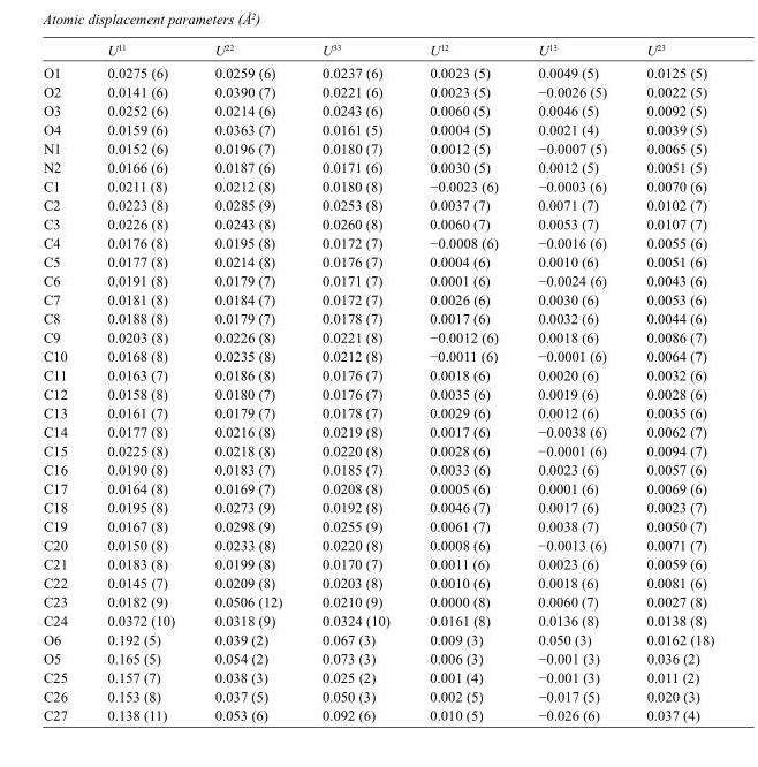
<table><thead><tr><td></td><td>U<sup>11</sup></td><td>U<sup>22</sup></td><td>U<sup>33</sup></td><td>U<sup>12</sup></td><td>U<sup>13</sup></td><td>U<sup>23</sup></td></tr></thead><tbody><tr><td>O1</td><td>0.0275 (6)</td><td>0.0259 (6)</td><td>0.0237 (6)</td><td>0.0023 (5)</td><td>0.0049 (5)</td><td>0.0125 (5)</td></tr><tr><td>O2</td><td>0.0141 (6)</td><td>0.0390 (7)</td><td>0.0221 (6)</td><td>0.0023 (5)</td><td>−0.0026 (5)</td><td>0.0022 (5)</td></tr><tr><td>O3</td><td>0.0252 (6)</td><td>0.0214 (6)</td><td>0.0243 (6)</td><td>0.0060 (5)</td><td>0.0046 (5)</td><td>0.0092 (5)</td></tr><tr><td>O4</td><td>0.0159 (6)</td><td>0.0363 (7)</td><td>0.0161 (5)</td><td>0.0004 (5)</td><td>0.0021 (4)</td><td>0.0039 (5)</td></tr><tr><td>N1</td><td>0.0152 (6)</td><td>0.0196 (7)</td><td>0.0180 (7)</td><td>0.0012 (5)</td><td>−0.0007 (5)</td><td>0.0065 (5)</td></tr><tr><td>N2</td><td>0.0166 (6)</td><td>0.0187 (6)</td><td>0.0171 (6)</td><td>0.0030 (5)</td><td>0.0012 (5)</td><td>0.0051 (5)</td></tr><tr><td>C1</td><td>0.0211 (8)</td><td>0.0212 (8)</td><td>0.0180 (8)</td><td>−0.0023 (6)</td><td>−0.0003 (6)</td><td>0.0070 (6)</td></tr><tr><td>C2</td><td>0.0223 (8)</td><td>0.0285 (9)</td><td>0.0253 (8)</td><td>0.0037 (7)</td><td>0.0071 (7)</td><td>0.0102 (7)</td></tr><tr><td>C3</td><td>0.0226 (8)</td><td>0.0243 (8)</td><td>0.0260 (8)</td><td>0.0060 (7)</td><td>0.0053 (7)</td><td>0.0107 (7)</td></tr><tr><td>C4</td><td>0.0176 (8)</td><td>0.0195 (8)</td><td>0.0172 (7)</td><td>−0.0008 (6)</td><td>−0.0016 (6)</td><td>0.0055 (6)</td></tr><tr><td>C5</td><td>0.0177 (8)</td><td>0.0214 (8)</td><td>0.0176 (7)</td><td>0.0004 (6)</td><td>0.0010 (6)</td><td>0.0051 (6)</td></tr><tr><td>C6</td><td>0.0191 (8)</td><td>0.0179 (7)</td><td>0.0171 (7)</td><td>0.0001 (6)</td><td>−0.0024 (6)</td><td>0.0043 (6)</td></tr><tr><td>C7</td><td>0.0181 (8)</td><td>0.0184 (7)</td><td>0.0172 (7)</td><td>0.0026 (6)</td><td>0.0030 (6)</td><td>0.0053 (6)</td></tr><tr><td>C8</td><td>0.0188 (8)</td><td>0.0179 (7)</td><td>0.0178 (7)</td><td>0.0017 (6)</td><td>0.0032 (6)</td><td>0.0044 (6)</td></tr><tr><td>C9</td><td>0.0203 (8)</td><td>0.0226 (8)</td><td>0.0221 (8)</td><td>−0.0012 (6)</td><td>0.0018 (6)</td><td>0.0086 (7)</td></tr><tr><td>C10</td><td>0.0168 (8)</td><td>0.0235 (8)</td><td>0.0212 (8)</td><td>−0.0011 (6)</td><td>−0.0001 (6)</td><td>0.0064 (7)</td></tr><tr><td>C11</td><td>0.0163 (7)</td><td>0.0186 (8)</td><td>0.0176 (7)</td><td>0.0018 (6)</td><td>0.0020 (6)</td><td>0.0032 (6)</td></tr><tr><td>C12</td><td>0.0158 (8)</td><td>0.0180 (7)</td><td>0.0176 (7)</td><td>0.0035 (6)</td><td>0.0019 (6)</td><td>0.0028 (6)</td></tr><tr><td>C13</td><td>0.0161 (7)</td><td>0.0179 (7)</td><td>0.0178 (7)</td><td>0.0029 (6)</td><td>0.0012 (6)</td><td>0.0035 (6)</td></tr><tr><td>C14</td><td>0.0177 (8)</td><td>0.0216 (8)</td><td>0.0219 (8)</td><td>0.0017 (6)</td><td>−0.0038 (6)</td><td>0.0062 (7)</td></tr><tr><td>C15</td><td>0.0225 (8)</td><td>0.0218 (8)</td><td>0.0220 (8)</td><td>0.0028 (6)</td><td>−0.0001 (6)</td><td>0.0094 (7)</td></tr><tr><td>C16</td><td>0.0190 (8)</td><td>0.0183 (7)</td><td>0.0185 (7)</td><td>0.0033 (6)</td><td>0.0023 (6)</td><td>0.0057 (6)</td></tr><tr><td>C17</td><td>0.0164 (8)</td><td>0.0169 (7)</td><td>0.0208 (8)</td><td>0.0005 (6)</td><td>0.0001 (6)</td><td>0.0069 (6)</td></tr><tr><td>C18</td><td>0.0195 (8)</td><td>0.0273 (9)</td><td>0.0192 (8)</td><td>0.0046 (7)</td><td>0.0017 (6)</td><td>0.0023 (7)</td></tr><tr><td>C19</td><td>0.0167 (8)</td><td>0.0298 (9)</td><td>0.0255 (9)</td><td>0.0061 (7)</td><td>0.0038 (7)</td><td>0.0050 (7)</td></tr><tr><td>C20</td><td>0.0150 (8)</td><td>0.0233 (8)</td><td>0.0220 (8)</td><td>0.0008 (6)</td><td>−0.0013 (6)</td><td>0.0071 (7)</td></tr><tr><td>C21</td><td>0.0183 (8)</td><td>0.0199 (8)</td><td>0.0170 (7)</td><td>0.0011 (6)</td><td>0.0023 (6)</td><td>0.0059 (6)</td></tr><tr><td>C22</td><td>0.0145 (7)</td><td>0.0209 (8)</td><td>0.0203 (8)</td><td>0.0010 (6)</td><td>0.0018 (6)</td><td>0.0081 (6)</td></tr><tr><td>C23</td><td>0.0182 (9)</td><td>0.0506 (12)</td><td>0.0210 (9)</td><td>0.0000 (8)</td><td>0.0060 (7)</td><td>0.0027 (8)</td></tr><tr><td>C24</td><td>0.0372 (10)</td><td>0.0318 (9)</td><td>0.0324 (10)</td><td>0.0161 (8)</td><td>0.0136 (8)</td><td>0.0138 (8)</td></tr><tr><td>O6</td><td>0.192 (5)</td><td>0.039 (2)</td><td>0.067 (3)</td><td>0.009 (3)</td><td>0.050 (3)</td><td>0.0162 (18)</td></tr><tr><td>O5</td><td>0.165 (5)</td><td>0.054 (2)</td><td>0.073 (3)</td><td>0.006 (3)</td><td>−0.001 (3)</td><td>0.036 (2)</td></tr><tr><td>C25</td><td>0.157 (7)</td><td>0.038 (3)</td><td>0.025 (2)</td><td>0.001 (4)</td><td>−0.001 (3)</td><td>0.011 (2)</td></tr><tr><td>C26</td><td>0.153 (8)</td><td>0.037 (5)</td><td>0.050 (3)</td><td>0.002 (5)</td><td>−0.017 (5)</td><td>0.020 (3)</td></tr><tr><td>C27</td><td>0.138 (11)</td><td>0.053 (6)</td><td>0.092 (6)</td><td>0.010 (5)</td><td>−0.026 (6)</td><td>0.037 (4)</td></tr></tbody></table>